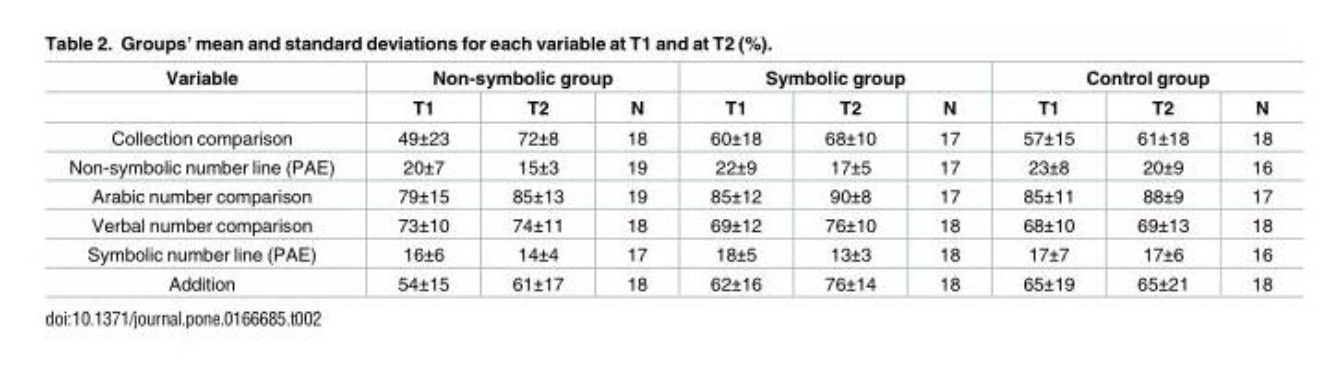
<table><thead><tr><td rowspan="2">Variable</td><td colspan="3">Non-symbolic group</td><td colspan="3">Symbolic group</td><td colspan="3">Control group</td></tr><tr><td>T1</td><td>T2</td><td>N</td><td>T1</td><td>T2</td><td>N</td><td>T1</td><td>T2</td><td>N</td></tr></thead><tbody><tr><td>Collection comparison</td><td>49±23</td><td>72±8</td><td>18</td><td>60±18</td><td>68±10</td><td>17</td><td>57±15</td><td>61±18</td><td>18</td></tr><tr><td>Non-symbolic number line (PAE)</td><td>20±7</td><td>15±3</td><td>19</td><td>22±9</td><td>17±5</td><td>17</td><td>23±8</td><td>20±9</td><td>16</td></tr><tr><td>Arabic number comparison</td><td>79±15</td><td>85±13</td><td>19</td><td>85±12</td><td>90±8</td><td>17</td><td>85±11</td><td>88±9</td><td>17</td></tr><tr><td>Verbal number comparison</td><td>73±10</td><td>74±11</td><td>18</td><td>69±12</td><td>76±10</td><td>18</td><td>68±10</td><td>69±13</td><td>18</td></tr><tr><td>Symbolic number line (PAE)</td><td>16±6</td><td>14±4</td><td>17</td><td>18±5</td><td>13±3</td><td>18</td><td>17±7</td><td>17±6</td><td>16</td></tr><tr><td>Addition</td><td>54±15</td><td>61±17</td><td>18</td><td>62±16</td><td>76±14</td><td>18</td><td>65±19</td><td>65±21</td><td>18</td></tr></tbody></table>